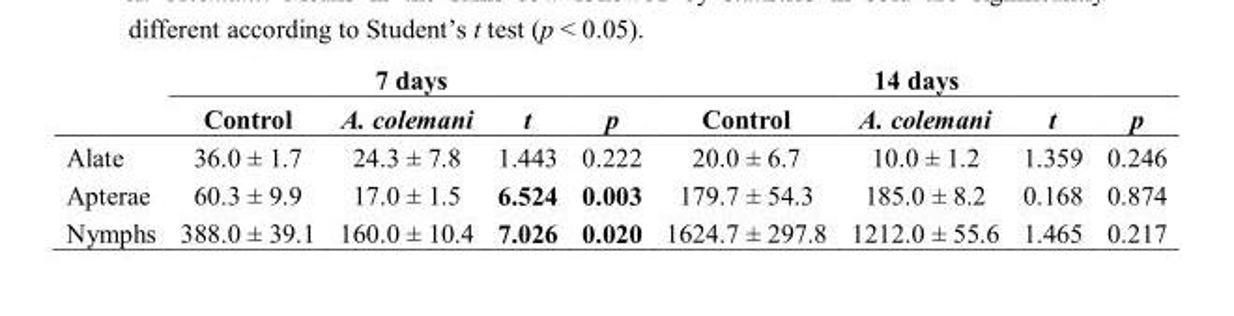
<table><thead><tr><td rowspan="2"></td><td colspan="4">7 days</td><td colspan="4">14 days</td></tr><tr><td>Control</td><td>A. colemani</td><td>t</td><td>p</td><td>Control</td><td>A. colemani</td><td>t</td><td>p</td></tr></thead><tbody><tr><td>Alate</td><td>36.0 ± 1.7</td><td>24.3 ± 7.8</td><td>1.443</td><td>0.222</td><td>20.0 ± 6.7</td><td>10.0 ± 1.2</td><td>1.359</td><td>0.246</td></tr><tr><td>Apterae</td><td>60.3 ± 9.9</td><td>17.0 ± 1.5</td><td>6.524</td><td>0.003</td><td>179.7 ± 54.3</td><td>185.0 ± 8.2</td><td>0.168</td><td>0.874</td></tr><tr><td>Nymphs</td><td>388.0 ± 39.1</td><td>160.0 ± 10.4</td><td>7.026</td><td>0.020</td><td>1624.7 ± 297.8</td><td>1212.0 ± 55.6</td><td>1.465</td><td>0.217</td></tr></tbody></table>